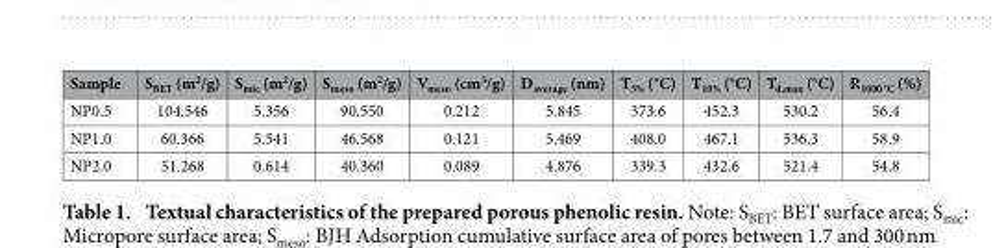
<table><thead><tr><td>Sample</td><td>S<sub>BET</sub> (m<sup>2</sup>/g)</td><td>S<sub>mic</sub> (m<sup>2</sup>/g)</td><td>S<sub>meso</sub> (m<sup>2</sup>/g)</td><td>V<sub>meso</sub> (cm<sup>3</sup>/g)</td><td>D<sub>average</sub> (nm)</td><td>T<sub>5%</sub> (°C)</td><td>T<sub>10%</sub> (°C)</td><td>T<sub>d,max</sub> (°C)</td><td>R<sub>1000 °C</sub> (%)</td></tr></thead><tbody><tr><td>NP0.5</td><td>104.546</td><td>5.356</td><td>90.550</td><td>0.212</td><td>5.845</td><td>373.6</td><td>452.3</td><td>530.2</td><td>56.4</td></tr><tr><td>NP1.0</td><td>60.366</td><td>5.541</td><td>46.568</td><td>0.121</td><td>5.469</td><td>408.0</td><td>467.1</td><td>536.3</td><td>58.9</td></tr><tr><td>NP2.0</td><td>51.268</td><td>0.614</td><td>40.360</td><td>0.089</td><td>4.876</td><td>339.3</td><td>432.6</td><td>521.4</td><td>54.8</td></tr></tbody></table>